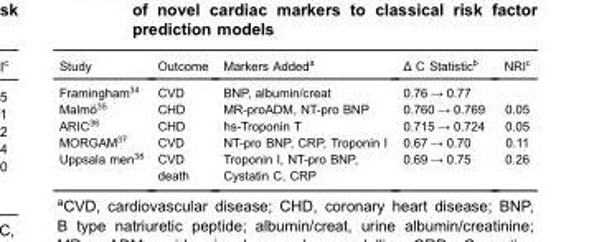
<table><thead><tr><td>Study</td><td>Outcome</td><td>Markers Added<sup>a</sup></td><td>Δ C Statistic<sup>b</sup></td><td>NRI<sup>c</sup></td></tr></thead><tbody><tr><td>Framingham<sup>34</sup></td><td>CVD</td><td>BNP, albumin/creat</td><td>0.76 → 0.77</td><td></td></tr><tr><td>Malmö<sup>35</sup></td><td>CHD</td><td>MR-proADM, NT-pro BNP</td><td>0.760 → 0.769</td><td>0.05</td></tr><tr><td>ARIC<sup>36</sup></td><td>CHD</td><td>hs-Troponin T</td><td>0.715 → 0.724</td><td>0.05</td></tr><tr><td>MORGAM<sup>37</sup></td><td>CVD</td><td>NT-pro BNP, CRP, Troponin I</td><td>0.67 → 0.70</td><td>0.11</td></tr><tr><td>Uppsala men<sup>38</sup></td><td>CVD death</td><td>Troponin I, NT-pro BNP, Cystatin C, CRP</td><td>0.69 → 0.75</td><td>0.26</td></tr></tbody></table>